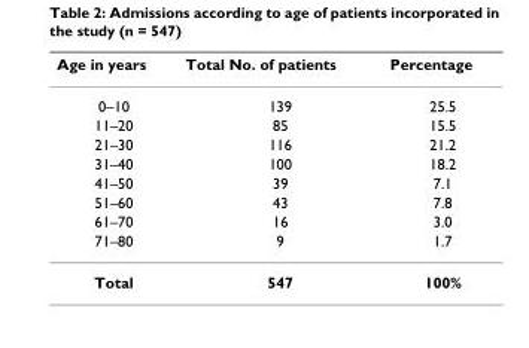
<table><thead><tr><td>Age in years</td><td>Total No. of patients</td><td>Percentage</td></tr></thead><tbody><tr><td>0–10</td><td>139</td><td>25.5</td></tr><tr><td>11–20</td><td>85</td><td>15.5</td></tr><tr><td>21–30</td><td>116</td><td>21.2</td></tr><tr><td>31–40</td><td>100</td><td>18.2</td></tr><tr><td>41–50</td><td>39</td><td>7.1</td></tr><tr><td>51–60</td><td>43</td><td>7.8</td></tr><tr><td>61–70</td><td>16</td><td>3.0</td></tr><tr><td>71–80</td><td>9</td><td>1.7</td></tr><tr><td>Total</td><td>547</td><td>100%</td></tr></tbody></table>